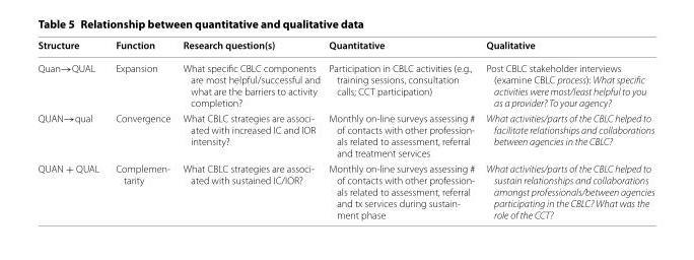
<table><thead><tr><td>Structure</td><td>Function</td><td>Research question(s)</td><td>Quantitative</td><td>Qualitative</td></tr></thead><tbody><tr><td>Quan→QUAL</td><td>Expansion</td><td>What specific CBLC components are most helpful/successful and what are the barriers to activity completion?</td><td>Participation in CBLC activities (e.g., training sessions, consultation calls; CCT participation)</td><td>Post CBLC stakeholder interviews (examine CBLC process): What specific activities were most/least helpful to you as a provider? To your agency?</td></tr><tr><td>QUAN→qual</td><td>Convergence</td><td>What CBLC strategies are associ- ated with increased IC and IOR intensity?</td><td>Monthly on-line surveys assessing # of contacts with other profession- als related to assessment, referral and treatment services</td><td>What activities/parts of the CBLC helped to facilitate relationships and collaborations between agencies in the CBLC?</td></tr><tr><td>QUAN + QUAL</td><td>Complemen- tarity</td><td>What CBLC strategies are associ- ated with sustained IC/IOR?</td><td>Monthly on-line surveys assessing # of contacts with other profession- als related to assessment, referral and tx services during sustain- ment phase</td><td>What activities/parts of the CBLC helped to sustain relationships and collaborations amongst professionals/between agencies participating in the CBLC? What was the role of the CCT?</td></tr></tbody></table>